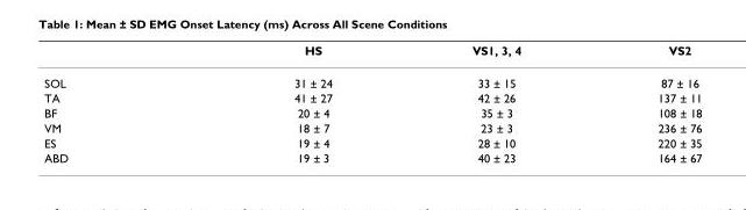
<table><thead><tr><td></td><td>HS</td><td>VS1, 3, 4</td><td>VS2</td></tr></thead><tbody><tr><td>SOL</td><td>31 ± 24</td><td>33 ± 15</td><td>87 ± 16</td></tr><tr><td>TA</td><td>41 ± 27</td><td>42 ± 26</td><td>137 ± 11</td></tr><tr><td>BF</td><td>20 ± 4</td><td>35 ± 3</td><td>108 ± 18</td></tr><tr><td>VM</td><td>18 ± 7</td><td>23 ± 3</td><td>236 ± 76</td></tr><tr><td>ES</td><td>19 ± 4</td><td>28 ± 10</td><td>220 ± 35</td></tr><tr><td>ABD</td><td>19 ± 3</td><td>40 ± 23</td><td>164 ± 67</td></tr></tbody></table>